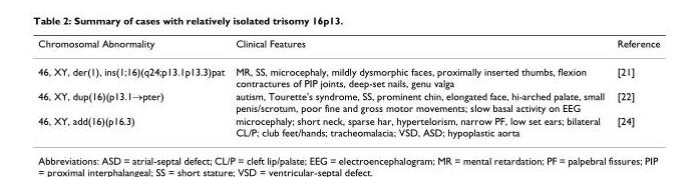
<table><thead><tr><td>Chromosomal Abnormality</td><td>Clinical Features</td><td>Reference</td></tr></thead><tbody><tr><td>46, XY, der(1), ins(1;16)(q24;p13.1p13.3)pat</td><td>MR, SS, microcephaly, mildly dysmorphic faces, proximally inserted thumbs, flexion contractures of PIP joints, deep-set nails, genu valga</td><td>[21]</td></tr><tr><td>46, XY, dup(16)(p13.1→pter)</td><td>autism, Tourette&#x27;s syndrome, SS, prominent chin, elongated face, hi-arched palate, small penis/scrotum, poor fine and gross motor movements; slow basal activity on EEG</td><td>[22]</td></tr><tr><td>46, XY, add(16)(p16.3)</td><td>microcephaly; short neck, sparse har, hypertelorism, narrow PF, low set ears; bilateral CL/P; club feet/hands; tracheomalacia; VSD, ASD; hypoplastic aorta</td><td>[24]</td></tr></tbody></table>